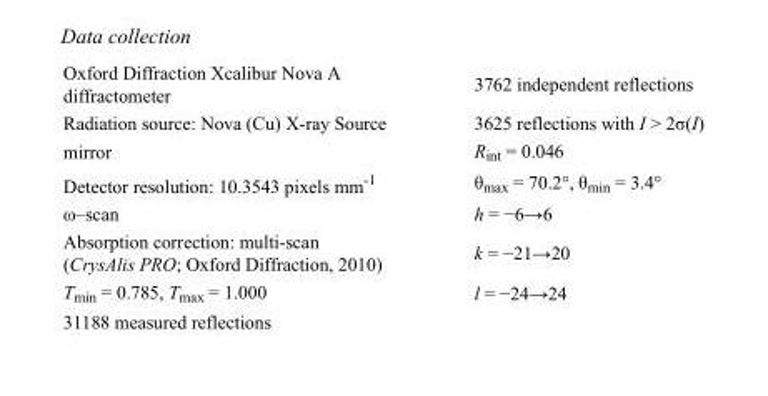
<table><tbody><tr><td>Oxford Diffraction Xcalibur Nova A diffractometer</td><td>3762 independent reflections</td></tr><tr><td>Radiation source: Nova (Cu) X-ray Source</td><td>3625 reflections with I &gt; 2σ(I)</td></tr><tr><td>mirror</td><td>R<sub>int</sub> = 0.046</td></tr><tr><td>Detector resolution: 10.3543 pixels mm<sup>-1</sup></td><td>θ<sub>max</sub> = 70.2°, θ<sub>min</sub> = 3.4°</td></tr><tr><td>ω–scan</td><td>h = −6→6</td></tr><tr><td>Absorption correction: multi-scan (CrysAlis PRO; Oxford Diffraction, 2010)</td><td>k = −21→20</td></tr><tr><td>T<sub>min</sub> = 0.785, T<sub>max</sub> = 1.000</td><td>l = −24→24</td></tr><tr><td>31188 measured reflections</td><td></td></tr></tbody></table>